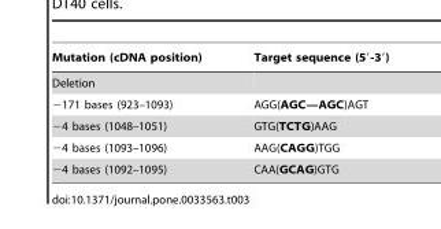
<table><thead><tr><td>Mutation (cDNA position)</td><td>Target sequence (5′-3′)</td></tr></thead><tbody><tr><td colspan="2">Deletion</td></tr><tr><td>−171 bases (923–1093)</td><td>AGG(AGC—AGC)AGT</td></tr><tr><td>−4 bases (1048–1051)</td><td>GTG(TCTG)AAG</td></tr><tr><td>−4 bases (1093–1096)</td><td>AAG(CAGG)TGG</td></tr><tr><td>−4 bases (1092–1095)</td><td>CAA(GCAG)GTG</td></tr></tbody></table>